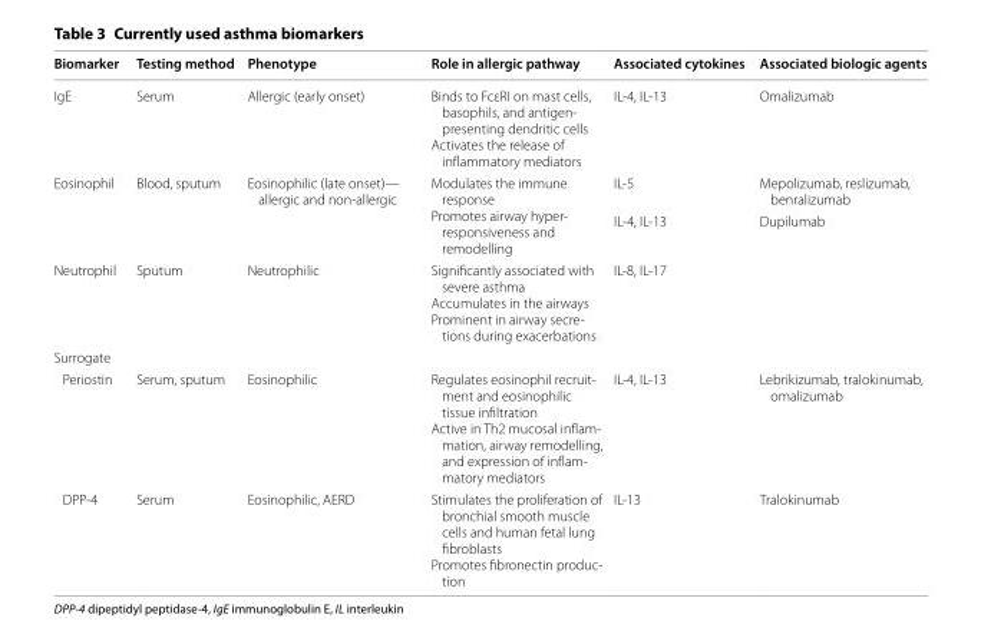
<table><thead><tr><td>Biomarker</td><td>Testing method</td><td>Phenotype</td><td>Role in allergic pathway</td><td>Associated cytokines</td><td>Associated biologic agents</td></tr></thead><tbody><tr><td>IgE</td><td>Serum</td><td>Allergic (early onset)</td><td>Binds to FcεRI on mast cells, basophils, and antigen- presenting dendritic cells Activates the release of inflammatory mediators</td><td>IL-4, IL-13</td><td>Omalizumab</td></tr><tr><td rowspan="2">Eosinophil</td><td rowspan="2">Blood, sputum</td><td rowspan="2">Eosinophilic (late onset)— allergic and non-allergic</td><td rowspan="2">Modulates the immune response Promotes airway hyper- responsiveness and remodelling</td><td>IL-5</td><td>Mepolizumab, reslizumab, benralizumab</td></tr><tr><td>IL-4, IL-13</td><td>Dupilumab</td></tr><tr><td>Neutrophil</td><td>Sputum</td><td>Neutrophilic</td><td>Significantly associated with severe asthma Accumulates in the airways Prominent in airway secre- tions during exacerbations</td><td>IL-8, IL-17</td><td></td></tr><tr><td colspan="6">Surrogate</td></tr><tr><td>Periostin</td><td>Serum, sputum</td><td>Eosinophilic</td><td>Regulates eosinophil recruit- ment and eosinophilic tissue infiltration Active in Th2 mucosal inflam- mation, airway remodelling, and expression of inflam- matory mediators</td><td>IL-4, IL-13</td><td>Lebrikizumab, tralokinumab, omalizumab</td></tr><tr><td>DPP-4</td><td>Serum</td><td>Eosinophilic, AERD</td><td>Stimulates the proliferation of bronchial smooth muscle cells and human fetal lung fibroblasts Promotes fibronectin produc- tion</td><td>IL-13</td><td>Tralokinumab</td></tr></tbody></table>